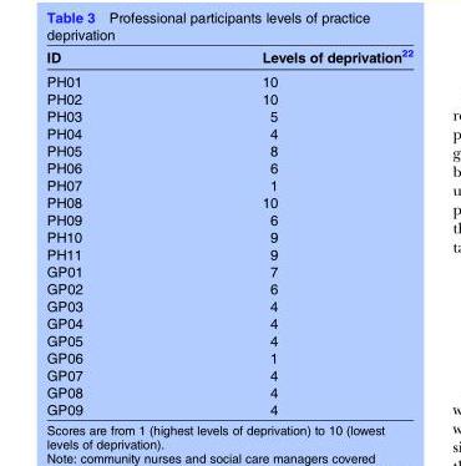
<table><thead><tr><td>ID</td><td>Levels of deprivation<sup>22</sup></td></tr></thead><tbody><tr><td>PH01</td><td>10</td></tr><tr><td>PH02</td><td>10</td></tr><tr><td>PH03</td><td>5</td></tr><tr><td>PH04</td><td>4</td></tr><tr><td>PH05</td><td>8</td></tr><tr><td>PH06</td><td>6</td></tr><tr><td>PH07</td><td>1</td></tr><tr><td>PH08</td><td>10</td></tr><tr><td>PH09</td><td>6</td></tr><tr><td>PH10</td><td>9</td></tr><tr><td>PH11</td><td>9</td></tr><tr><td>GP01</td><td>7</td></tr><tr><td>GP02</td><td>6</td></tr><tr><td>GP03</td><td>4</td></tr><tr><td>GP04</td><td>4</td></tr><tr><td>GP05</td><td>4</td></tr><tr><td>GP06</td><td>1</td></tr><tr><td>GP07</td><td>4</td></tr><tr><td>GP08</td><td>4</td></tr><tr><td>GP09</td><td>4</td></tr></tbody></table>